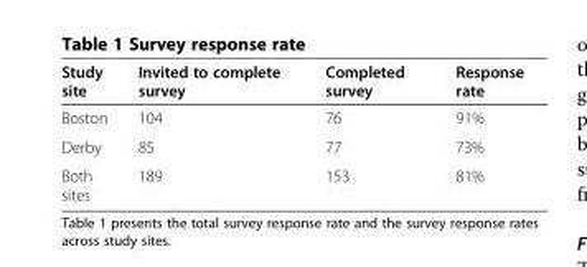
<table><thead><tr><td>Study site</td><td>Invited to complete survey</td><td>Completed survey</td><td>Response rate</td></tr></thead><tbody><tr><td>Boston</td><td>104</td><td>76</td><td>91%</td></tr><tr><td>Derby</td><td>85</td><td>77</td><td>73%</td></tr><tr><td>Both sites</td><td>189</td><td>153</td><td>81%</td></tr></tbody></table>